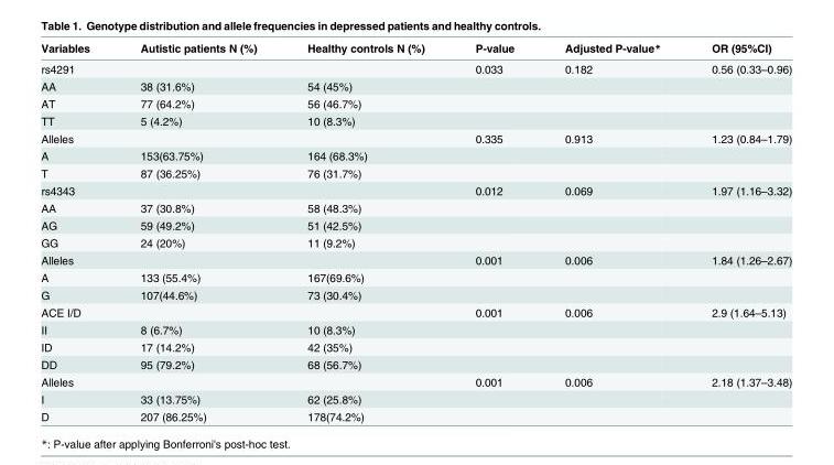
<table><thead><tr><td>Variables</td><td>Autistic patients N (%)</td><td>Healthy controls N (%)</td><td>P-value</td><td>Adjusted P-value*</td><td>OR (95%CI)</td></tr></thead><tbody><tr><td>rs4291</td><td></td><td></td><td>0.033</td><td>0.182</td><td>0.56 (0.33–0.96)</td></tr><tr><td>AA</td><td>38 (31.6%)</td><td>54 (45%)</td><td></td><td></td><td></td></tr><tr><td>AT</td><td>77 (64.2%)</td><td>56 (46.7%)</td><td></td><td></td><td></td></tr><tr><td>TT</td><td>5 (4.2%)</td><td>10 (8.3%)</td><td></td><td></td><td></td></tr><tr><td>Alleles</td><td></td><td></td><td>0.335</td><td>0.913</td><td>1.23 (0.84–1.79)</td></tr><tr><td>A</td><td>153(63.75%)</td><td>164 (68.3%)</td><td></td><td></td><td></td></tr><tr><td>T</td><td>87 (36.25%)</td><td>76 (31.7%)</td><td></td><td></td><td></td></tr><tr><td>rs4343</td><td></td><td></td><td>0.012</td><td>0.069</td><td>1.97 (1.16–3.32)</td></tr><tr><td>AA</td><td>37 (30.8%)</td><td>58 (48.3%)</td><td></td><td></td><td></td></tr><tr><td>AG</td><td>59 (49.2%)</td><td>51 (42.5%)</td><td></td><td></td><td></td></tr><tr><td>GG</td><td>24 (20%)</td><td>11 (9.2%)</td><td></td><td></td><td></td></tr><tr><td>Alleles</td><td></td><td></td><td>0.001</td><td>0.006</td><td>1.84 (1.26–2.67)</td></tr><tr><td>A</td><td>133 (55.4%)</td><td>167(69.6%)</td><td></td><td></td><td></td></tr><tr><td>G</td><td>107(44.6%)</td><td>73 (30.4%)</td><td></td><td></td><td></td></tr><tr><td>ACE I/D</td><td></td><td></td><td>0.001</td><td>0.006</td><td>2.9 (1.64–5.13)</td></tr><tr><td>II</td><td>8 (6.7%)</td><td>10 (8.3%)</td><td></td><td></td><td></td></tr><tr><td>ID</td><td>17 (14.2%)</td><td>42 (35%)</td><td></td><td></td><td></td></tr><tr><td>DD</td><td>95 (79.2%)</td><td>68 (56.7%)</td><td></td><td></td><td></td></tr><tr><td>Alleles</td><td></td><td></td><td>0.001</td><td>0.006</td><td>2.18 (1.37–3.48)</td></tr><tr><td>I</td><td>33 (13.75%)</td><td>62 (25.8%)</td><td></td><td></td><td></td></tr><tr><td>D</td><td>207 (86.25%)</td><td>178(74.2%)</td><td></td><td></td><td></td></tr></tbody></table>